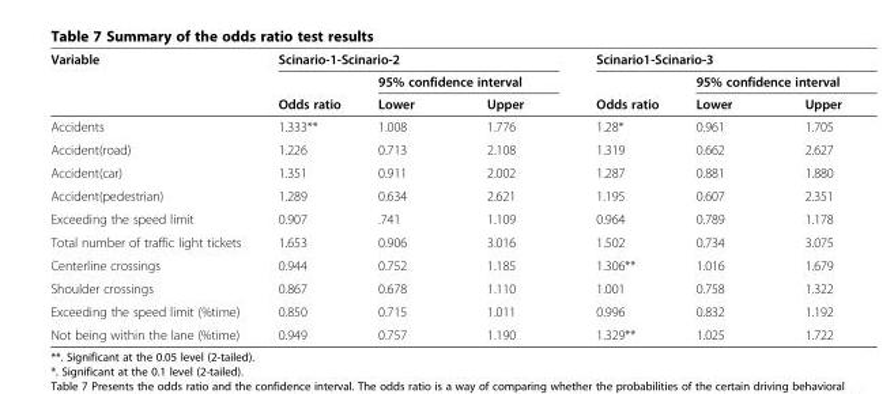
<table><thead><tr><td rowspan="3">Variable</td><td colspan="3">Scinario-1-Scinario-2</td><td colspan="3">Scinario1-Scinario-3</td></tr><tr><td rowspan="2">Odds ratio</td><td colspan="2">95% confidence interval</td><td rowspan="2">Odds ratio</td><td colspan="2">95% confidence interval</td></tr><tr><td>Lower</td><td>Upper</td><td>Lower</td><td>Upper</td></tr></thead><tbody><tr><td>Accidents</td><td>1.333**</td><td>1.008</td><td>1.776</td><td>1.28*</td><td>0.961</td><td>1.705</td></tr><tr><td>Accident(road)</td><td>1.226</td><td>0.713</td><td>2.108</td><td>1.319</td><td>0.662</td><td>2.627</td></tr><tr><td>Accident(car)</td><td>1.351</td><td>0.911</td><td>2.002</td><td>1.287</td><td>0.881</td><td>1.880</td></tr><tr><td>Accident(pedestrian)</td><td>1.289</td><td>0.634</td><td>2.621</td><td>1.195</td><td>0.607</td><td>2.351</td></tr><tr><td>Exceeding the speed limit</td><td>0.907</td><td>.741</td><td>1.109</td><td>0.964</td><td>0.789</td><td>1.178</td></tr><tr><td>Total number of traffic light tickets</td><td>1.653</td><td>0.906</td><td>3.016</td><td>1.502</td><td>0.734</td><td>3.075</td></tr><tr><td>Centerline crossings</td><td>0.944</td><td>0.752</td><td>1.185</td><td>1.306**</td><td>1.016</td><td>1.679</td></tr><tr><td>Shoulder crossings</td><td>0.867</td><td>0.678</td><td>1.110</td><td>1.001</td><td>0.758</td><td>1.322</td></tr><tr><td>Exceeding the speed limit (%time)</td><td>0.850</td><td>0.715</td><td>1.011</td><td>0.996</td><td>0.832</td><td>1.192</td></tr><tr><td>Not being within the lane (%time)</td><td>0.949</td><td>0.757</td><td>1.190</td><td>1.329**</td><td>1.025</td><td>1.722</td></tr></tbody></table>